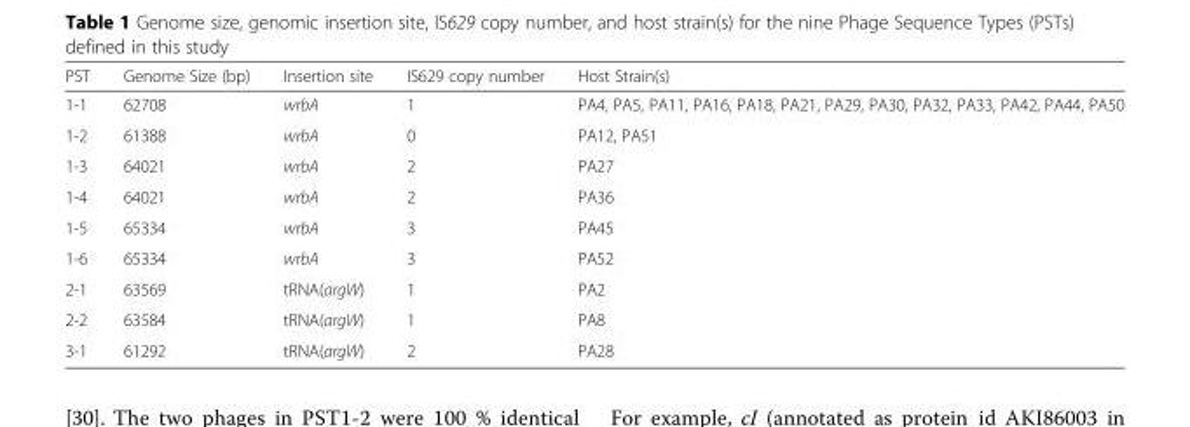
<table><thead><tr><td>PST</td><td>Genome Size (bp)</td><td>Insertion site</td><td>IS629 copy number</td><td>Host Strain(s)</td></tr></thead><tbody><tr><td>1-1</td><td>62708</td><td>wrbA</td><td>1</td><td>PA4, PA5, PA11, PA16, PA18, PA21, PA29, PA30, PA32, PA33, PA42, PA44, PA50</td></tr><tr><td>1-2</td><td>61388</td><td>wrbA</td><td>0</td><td>PA12, PA51</td></tr><tr><td>1-3</td><td>64021</td><td>wrbA</td><td>2</td><td>PA27</td></tr><tr><td>1-4</td><td>64021</td><td>wrbA</td><td>2</td><td>PA36</td></tr><tr><td>1-5</td><td>65334</td><td>wrbA</td><td>3</td><td>PA45</td></tr><tr><td>1-6</td><td>65334</td><td>wrbA</td><td>3</td><td>PA52</td></tr><tr><td>2-1</td><td>63569</td><td>tRNA(argW)</td><td>1</td><td>PA2</td></tr><tr><td>2-2</td><td>63584</td><td>tRNA(argW)</td><td>1</td><td>PA8</td></tr><tr><td>3-1</td><td>61292</td><td>tRNA(argW)</td><td>2</td><td>PA28</td></tr></tbody></table>